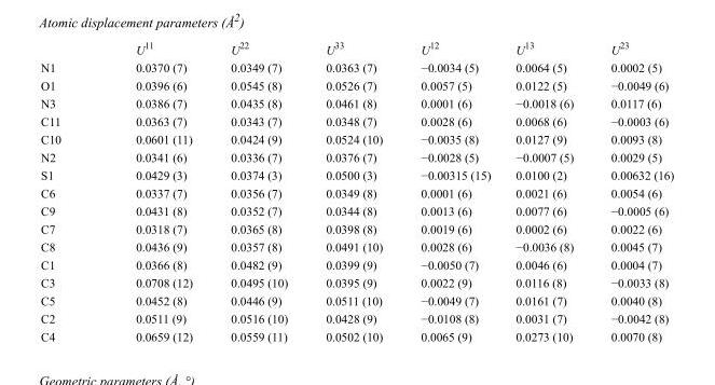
<table><thead><tr><td></td><td>U<sup>11</sup></td><td>U<sup>22</sup></td><td>U<sup>33</sup></td><td>U<sup>12</sup></td><td>U<sup>13</sup></td><td>U<sup>23</sup></td></tr></thead><tbody><tr><td>N1</td><td>0.0370 (7)</td><td>0.0349 (7)</td><td>0.0363 (7)</td><td>−0.0034 (5)</td><td>0.0064 (5)</td><td>0.0002 (5)</td></tr><tr><td>O1</td><td>0.0396 (6)</td><td>0.0545 (8)</td><td>0.0526 (7)</td><td>0.0057 (5)</td><td>0.0122 (5)</td><td>−0.0049 (6)</td></tr><tr><td>N3</td><td>0.0386 (7)</td><td>0.0435 (8)</td><td>0.0461 (8)</td><td>0.0001 (6)</td><td>−0.0018 (6)</td><td>0.0117 (6)</td></tr><tr><td>C11</td><td>0.0363 (7)</td><td>0.0343 (7)</td><td>0.0348 (7)</td><td>0.0028 (6)</td><td>0.0068 (6)</td><td>−0.0003 (6)</td></tr><tr><td>C10</td><td>0.0601 (11)</td><td>0.0424 (9)</td><td>0.0524 (10)</td><td>−0.0035 (8)</td><td>0.0127 (9)</td><td>0.0093 (8)</td></tr><tr><td>N2</td><td>0.0341 (6)</td><td>0.0336 (7)</td><td>0.0376 (7)</td><td>−0.0028 (5)</td><td>−0.0007 (5)</td><td>0.0029 (5)</td></tr><tr><td>S1</td><td>0.0429 (3)</td><td>0.0374 (3)</td><td>0.0500 (3)</td><td>−0.00315 (15)</td><td>0.0100 (2)</td><td>0.00632 (16)</td></tr><tr><td>C6</td><td>0.0337 (7)</td><td>0.0356 (7)</td><td>0.0349 (8)</td><td>0.0001 (6)</td><td>0.0021 (6)</td><td>0.0054 (6)</td></tr><tr><td>C9</td><td>0.0431 (8)</td><td>0.0352 (7)</td><td>0.0344 (8)</td><td>0.0013 (6)</td><td>0.0077 (6)</td><td>−0.0005 (6)</td></tr><tr><td>C7</td><td>0.0318 (7)</td><td>0.0365 (8)</td><td>0.0398 (8)</td><td>0.0019 (6)</td><td>0.0002 (6)</td><td>0.0022 (6)</td></tr><tr><td>C8</td><td>0.0436 (9)</td><td>0.0357 (8)</td><td>0.0491 (10)</td><td>0.0028 (6)</td><td>−0.0036 (8)</td><td>0.0045 (7)</td></tr><tr><td>C1</td><td>0.0366 (8)</td><td>0.0482 (9)</td><td>0.0399 (9)</td><td>−0.0050 (7)</td><td>0.0046 (6)</td><td>0.0004 (7)</td></tr><tr><td>C3</td><td>0.0708 (12)</td><td>0.0495 (10)</td><td>0.0395 (9)</td><td>0.0022 (9)</td><td>0.0116 (8)</td><td>−0.0033 (8)</td></tr><tr><td>C5</td><td>0.0452 (8)</td><td>0.0446 (9)</td><td>0.0511 (10)</td><td>−0.0049 (7)</td><td>0.0161 (7)</td><td>0.0040 (8)</td></tr><tr><td>C2</td><td>0.0511 (9)</td><td>0.0516 (10)</td><td>0.0428 (9)</td><td>−0.0108 (8)</td><td>0.0031 (7)</td><td>−0.0042 (8)</td></tr><tr><td>C4</td><td>0.0659 (12)</td><td>0.0559 (11)</td><td>0.0502 (10)</td><td>0.0065 (9)</td><td>0.0273 (10)</td><td>0.0070 (8)</td></tr></tbody></table>